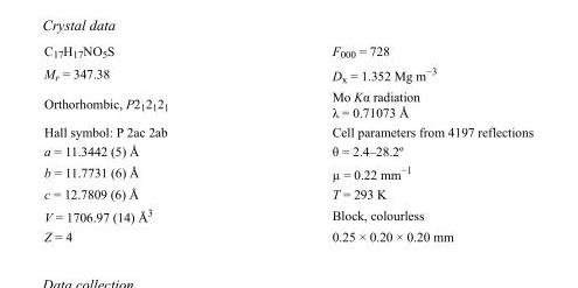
<table><tbody><tr><td>C<sub>17</sub>H<sub>17</sub>NO<sub>5</sub>S</td><td>F000 = 728</td></tr><tr><td>M<sub>r</sub> = 347.38</td><td>D<sub>x</sub> = 1.352 Mg m<sup>−3</sup></td></tr><tr><td>Orthorhombic, P2<sub>1</sub>2<sub>1</sub>2<sub>1</sub></td><td>Mo Kα radiation λ = 0.71073 Å</td></tr><tr><td>Hall symbol: P 2ac 2ab</td><td>Cell parameters from 4197 reflections</td></tr><tr><td>a = 11.3442 (5) Å</td><td>θ = 2.4–28.2º</td></tr><tr><td>b = 11.7731 (6) Å</td><td>µ = 0.22 mm<sup>−1</sup></td></tr><tr><td>c = 12.7809 (6) Å</td><td>T = 293 K</td></tr><tr><td>V = 1706.97 (14) Å<sup>3</sup></td><td>Block, colourless</td></tr><tr><td>Z = 4</td><td>0.25 × 0.20 × 0.20 mm</td></tr></tbody></table>